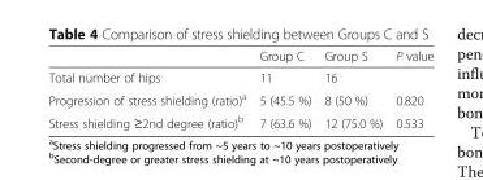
<table><thead><tr><td></td><td>Group C</td><td>Group S</td><td>P value</td></tr></thead><tbody><tr><td>Total number of hips</td><td>11</td><td>16</td><td></td></tr><tr><td>Progression of stress shielding (ratio)<sup>a</sup></td><td>5 (45.5 %)</td><td>8 (50 %)</td><td>0.820</td></tr><tr><td>Stress shielding ≥2nd degree (ratio)<sup>b</sup></td><td>7 (63.6 %)</td><td>12 (75.0 %)</td><td>0.533</td></tr></tbody></table>